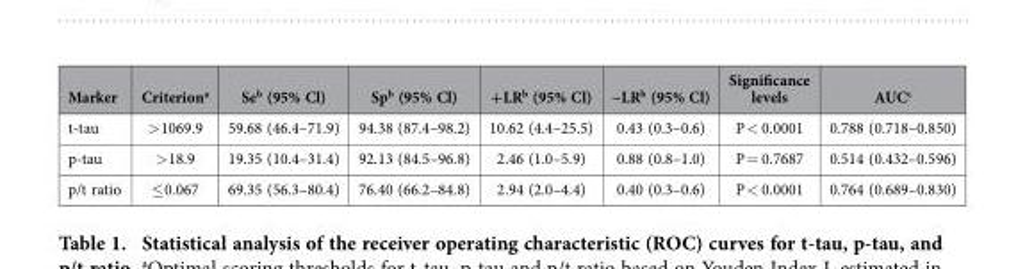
<table><thead><tr><td>Marker</td><td>Criterion<sup>a</sup></td><td>Se<sup>b</sup> (95% Cl)</td><td>Sp<sup>b</sup> (95% Cl)</td><td>+LR<sup>b</sup> (95% Cl)</td><td>−LR<sup>b</sup> (95% Cl)</td><td>Significance levels</td><td>AUC<sup>c</sup></td></tr></thead><tbody><tr><td>t-tau</td><td>&gt; 1069.9</td><td>59.68 (46.4–71.9)</td><td>94.38 (87.4–98.2)</td><td>10.62 (4.4–25.5)</td><td>0.43 (0.3–0.6)</td><td>P &lt; 0.0001</td><td>0.788 (0.718–0.850)</td></tr><tr><td>p-tau</td><td>&gt; 18.9</td><td>19.35 (10.4–31.4)</td><td>92.13 (84.5–96.8)</td><td>2.46 (1.0–5.9)</td><td>0.88 (0.8–1.0)</td><td>P = 0.7687</td><td>0.514 (0.432–0.596)</td></tr><tr><td>p/t ratio</td><td>≤ 0.067</td><td>69.35 (56.3–80.4)</td><td>76.40 (66.2–84.8)</td><td>2.94 (2.0–4.4)</td><td>0.40 (0.3–0.6)</td><td>P &lt; 0.0001</td><td>0.764 (0.689–0.830)</td></tr></tbody></table>